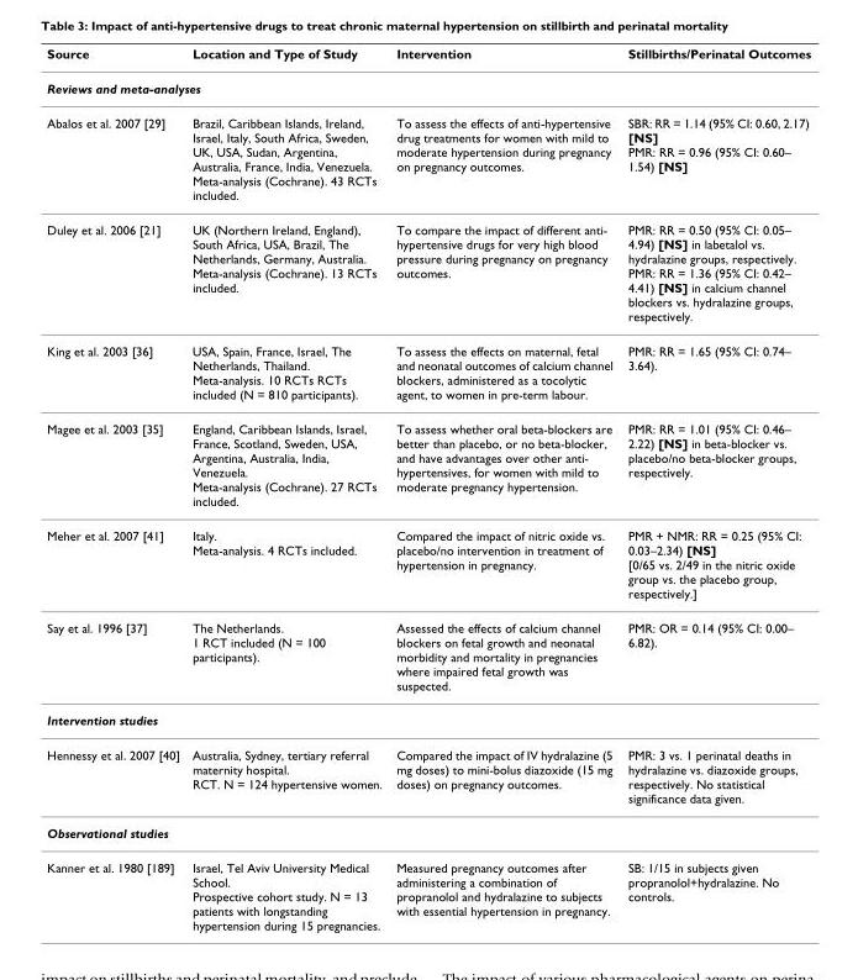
<table><thead><tr><td>Source</td><td>Location and Type of Study</td><td>Intervention</td><td>Stillbirths/Perinatal Outcomes</td></tr></thead><tbody><tr><td colspan="4">Reviews and meta-analyses</td></tr><tr><td>Abalos et al. 2007 [29]</td><td>Brazil, Caribbean Islands, Ireland, Israel, Italy, South Africa, Sweden, UK, USA, Sudan, Argentina, Australia, France, India, Venezuela. Meta-analysis (Cochrane). 43 RCTs included.</td><td>To assess the effects of anti-hypertensive drug treatments for women with mild to moderate hypertension during pregnancy on pregnancy outcomes.</td><td>SBR: RR = 1.14 (95% CI: 0.60, 2.17) [NS] PMR: RR = 0.96 (95% CI: 0.60– 1.54) [NS]</td></tr><tr><td>Duley et al. 2006 [21]</td><td>UK (Northern Ireland, England), South Africa, USA, Brazil, The Netherlands, Germany, Australia. Meta-analysis (Cochrane). 13 RCTs included.</td><td>To compare the impact of different anti- hypertensive drugs for very high blood pressure during pregnancy on pregnancy outcomes.</td><td>PMR: RR = 0.50 (95% CI: 0.05– 4.94) [NS] in labetalol vs. hydralazine groups, respectively. PMR: RR = 1.36 (95% CI: 0.42– 4.41) [NS] in calcium channel blockers vs. hydralazine groups, respectively.</td></tr><tr><td>King et al. 2003 [36]</td><td>USA, Spain, France, Israel, The Netherlands, Thailand. Meta-analysis. 10 RCTs RCTs included (N = 810 participants).</td><td>To assess the effects on maternal, fetal and neonatal outcomes of calcium channel blockers, administered as a tocolytic agent, to women in pre-term labour.</td><td>PMR: RR = 1.65 (95% CI: 0.74– 3.64).</td></tr><tr><td>Magee et al. 2003 [35]</td><td>England, Caribbean Islands, Israel, France, Scotland, Sweden, USA, Argentina, Australia, India, Venezuela. Meta-analysis (Cochrane). 27 RCTs included.</td><td>To assess whether oral beta-blockers are better than placebo, or no beta-blocker, and have advantages over other anti- hypertensives, for women with mild to moderate pregnancy hypertension.</td><td>PMR: RR = 1.01 (95% CI: 0.46– 2.22) [NS] in beta-blocker vs. placebo/no beta-blocker groups, respectively.</td></tr><tr><td>Meher et al. 2007 [41]</td><td>Italy. Meta-analysis. 4 RCTs included.</td><td>Compared the impact of nitric oxide vs. placebo/no intervention in treatment of hypertension in pregnancy.</td><td>PMR + NMR: RR = 0.25 (95% CI: 0.03–2.34) [NS] [0/65 vs. 2/49 in the nitric oxide group vs. the placebo group, respectively.]</td></tr><tr><td>Say et al. 1996 [37]</td><td>The Netherlands. 1 RCT included (N = 100 participants).</td><td>Assessed the effects of calcium channel blockers on fetal growth and neonatal morbidity and mortality in pregnancies where impaired fetal growth was suspected.</td><td>PMR: OR = 0.14 (95% CI: 0.00– 6.82).</td></tr><tr><td colspan="4">Intervention studies</td></tr><tr><td>Hennessy et al. 2007 [40]</td><td>Australia, Sydney, tertiary referral maternity hospital. RCT. N = 124 hypertensive women.</td><td>Compared the impact of IV hydralazine (5 mg doses) to mini-bolus diazoxide (15 mg doses) on pregnancy outcomes.</td><td>PMR: 3 vs. 1 perinatal deaths in hydralazine vs. diazoxide groups, respectively. No statistical significance data given.</td></tr><tr><td colspan="4">Observational studies</td></tr><tr><td>Kanner et al. 1980 [189]</td><td>Israel, Tel Aviv University Medical School. Prospective cohort study. N = 13 patients with longstanding hypertension during 15 pregnancies.</td><td>Measured pregnancy outcomes after administering a combination of propranolol and hydralazine to subjects with essential hypertension in pregnancy.</td><td>SB: 1/15 in subjects given propranolol+hydralazine. No controls.</td></tr></tbody></table>